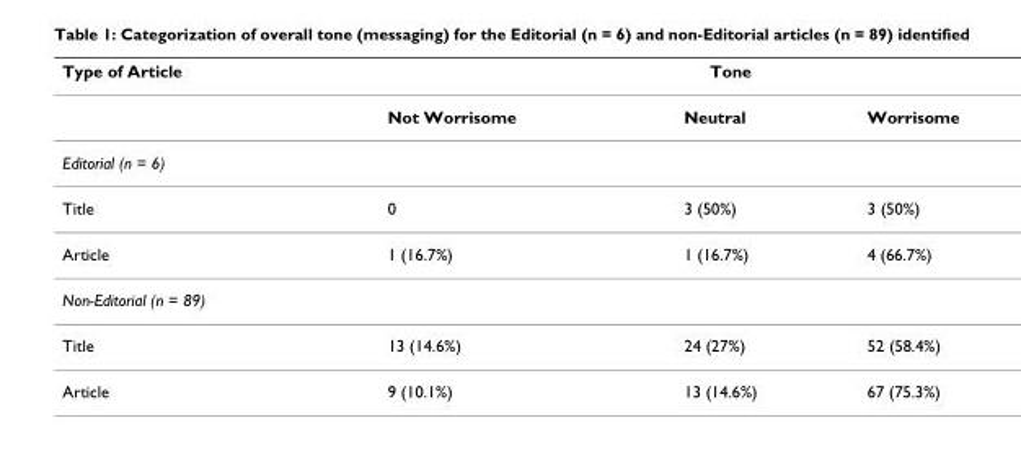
<table><thead><tr><td rowspan="2">Type of Article</td><td colspan="3">Tone</td></tr><tr><td>Not Worrisome</td><td>Neutral</td><td>Worrisome</td></tr></thead><tbody><tr><td colspan="4">Editorial (n = 6)</td></tr><tr><td>Title</td><td>0</td><td>3 (50%)</td><td>3 (50%)</td></tr><tr><td>Article</td><td>1 (16.7%)</td><td>1 (16.7%)</td><td>4 (66.7%)</td></tr><tr><td colspan="4">Non-Editorial (n = 89)</td></tr><tr><td>Title</td><td>13 (14.6%)</td><td>24 (27%)</td><td>52 (58.4%)</td></tr><tr><td>Article</td><td>9 (10.1%)</td><td>13 (14.6%)</td><td>67 (75.3%)</td></tr></tbody></table>